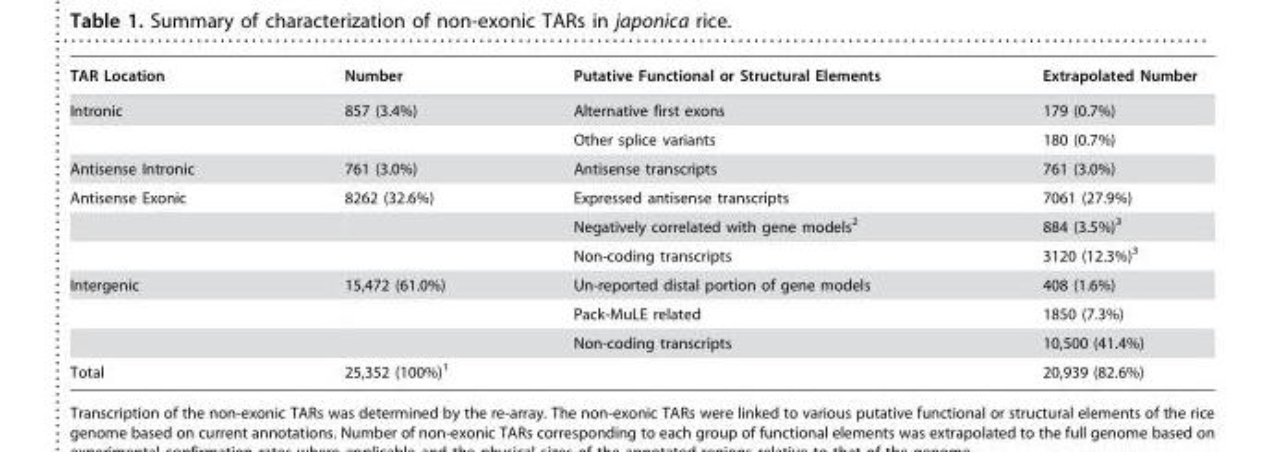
<table><thead><tr><td>TAR Location</td><td>Number</td><td>Putative Functional or Structural Elements</td><td>Extrapolated Number</td></tr></thead><tbody><tr><td rowspan="2">Intronic</td><td>857 (3.4%)</td><td>Alternative first exons</td><td>179 (0.7%)</td></tr><tr><td></td><td>Other splice variants</td><td>180 (0.7%)</td></tr><tr><td>Antisense Intronic</td><td>761 (3.0%)</td><td>Antisense transcripts</td><td>761 (3.0%)</td></tr><tr><td rowspan="3">Antisense Exonic</td><td>8262 (32.6%)</td><td>Expressed antisense transcripts</td><td>7061 (27.9%)</td></tr><tr><td></td><td>Negatively correlated with gene models<sup>2</sup></td><td>884 (3.5%)<sup>3</sup></td></tr><tr><td></td><td>Non-coding transcripts</td><td>3120 (12.3%)<sup>3</sup></td></tr><tr><td rowspan="3">Intergenic</td><td>15,472 (61.0%)</td><td>Un-reported distal portion of gene models</td><td>408 (1.6%)</td></tr><tr><td></td><td>Pack-MuLE related</td><td>1850 (7.3%)</td></tr><tr><td></td><td>Non-coding transcripts</td><td>10,500 (41.4%)</td></tr><tr><td>Total</td><td>25,352 (100%)<sup>1</sup></td><td></td><td>20,939 (82.6%)</td></tr></tbody></table>